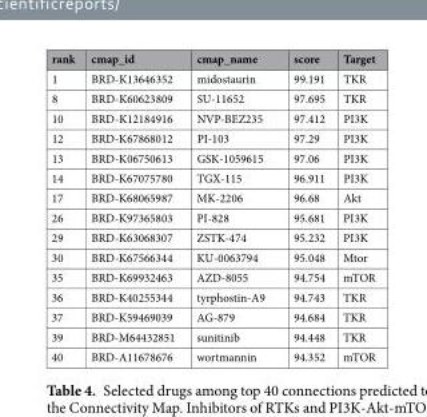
<table><thead><tr><td>rank</td><td>cmap_id</td><td>cmap_name</td><td>score</td><td>Target</td></tr></thead><tbody><tr><td>1</td><td>BRD-K13646352</td><td>midostaurin</td><td>99.191</td><td>TKR</td></tr><tr><td>8</td><td>BRD-K60623809</td><td>SU-11652</td><td>97.695</td><td>TKR</td></tr><tr><td>10</td><td>BRD-K12184916</td><td>NVP-BEZ235</td><td>97.412</td><td>PI3K</td></tr><tr><td>12</td><td>BRD-K67868012</td><td>PI-103</td><td>97.29</td><td>PI3K</td></tr><tr><td>13</td><td>BRD-K06750613</td><td>GSK-1059615</td><td>97.06</td><td>PI3K</td></tr><tr><td>14</td><td>BRD-K67075780</td><td>TGX-115</td><td>96.911</td><td>PI3K</td></tr><tr><td>17</td><td>BRD-K68065987</td><td>MK-2206</td><td>96.68</td><td>Akt</td></tr><tr><td>26</td><td>BRD-K97365803</td><td>PI-828</td><td>95.681</td><td>PI3K</td></tr><tr><td>29</td><td>BRD-K63068307</td><td>ZSTK-474</td><td>95.232</td><td>PI3K</td></tr><tr><td>30</td><td>BRD-K67566344</td><td>KU-0063794</td><td>95.048</td><td>Mtor</td></tr><tr><td>35</td><td>BRD-K69932463</td><td>AZD-8055</td><td>94.754</td><td>mTOR</td></tr><tr><td>36</td><td>BRD-K40255344</td><td>tyrphostin-A9</td><td>94.743</td><td>TKR</td></tr><tr><td>37</td><td>BRD-K59469039</td><td>AG-879</td><td>94.684</td><td>TKR</td></tr><tr><td>39</td><td>BRD-M64432851</td><td>sunitinib</td><td>94.448</td><td>TKR</td></tr><tr><td>40</td><td>BRD-A11678676</td><td>wortmannin</td><td>94.352</td><td>mTOR</td></tr></tbody></table>